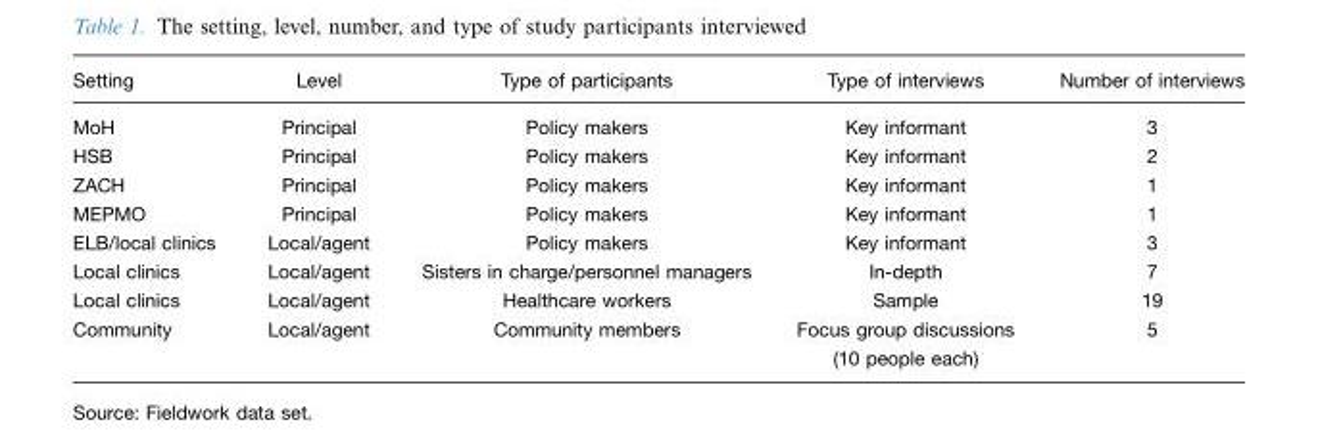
<table><thead><tr><td>Setting</td><td>Level</td><td>Type of participants</td><td>Type of interviews</td><td>Number of interviews</td></tr></thead><tbody><tr><td>MoH</td><td>Principal</td><td>Policy makers</td><td>Key informant</td><td>3</td></tr><tr><td>HSB</td><td>Principal</td><td>Policy makers</td><td>Key informant</td><td>2</td></tr><tr><td>ZACH</td><td>Principal</td><td>Policy makers</td><td>Key informant</td><td>1</td></tr><tr><td>MEPMO</td><td>Principal</td><td>Policy makers</td><td>Key informant</td><td>1</td></tr><tr><td>ELB/local clinics</td><td>Local/agent</td><td>Policy makers</td><td>Key informant</td><td>3</td></tr><tr><td>Local clinics</td><td>Local/agent</td><td>Sisters in charge/personnel managers</td><td>In-depth</td><td>7</td></tr><tr><td>Local clinics</td><td>Local/agent</td><td>Healthcare workers</td><td>Sample</td><td>19</td></tr><tr><td>Community</td><td>Local/agent</td><td>Community members</td><td>Focus group discussions (10 people each)</td><td>5</td></tr></tbody></table>